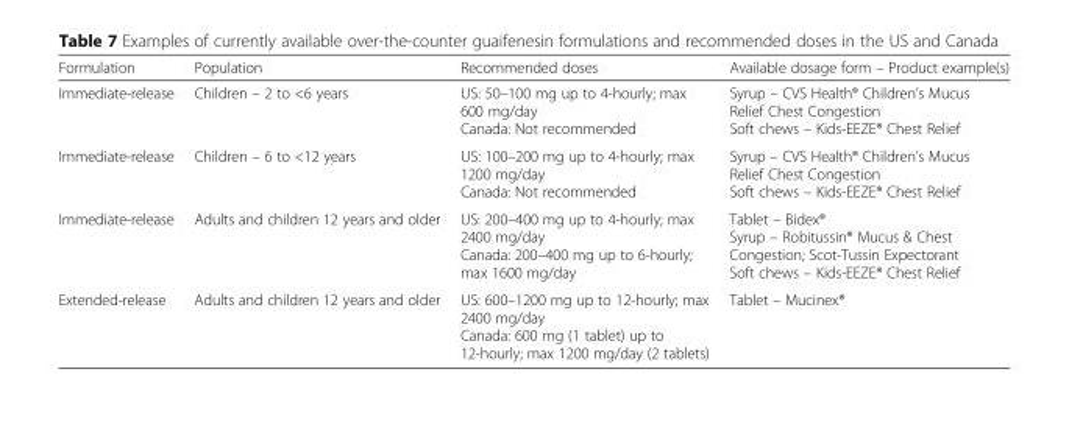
<table><thead><tr><td>Formulation</td><td>Population</td><td>Recommended doses</td><td>Available dosage form – Product example(s)</td></tr></thead><tbody><tr><td>Immediate-release</td><td>Children – 2 to &lt;6 years</td><td>US: 50–100 mg up to 4-hourly; max 600 mg/day Canada: Not recommended</td><td>Syrup – CVS Health® Children’s Mucus Relief Chest Congestion Soft chews – Kids-EEZE® Chest Relief</td></tr><tr><td>Immediate-release</td><td>Children – 6 to &lt;12 years</td><td>US: 100–200 mg up to 4-hourly; max 1200 mg/day Canada: Not recommended</td><td>Syrup – CVS Health® Children’s Mucus Relief Chest Congestion Soft chews – Kids-EEZE® Chest Relief</td></tr><tr><td>Immediate-release</td><td>Adults and children 12 years and older</td><td>US: 200–400 mg up to 4-hourly; max 2400 mg/day Canada: 200–400 mg up to 6-hourly; max 1600 mg/day</td><td>Tablet – Bidex® Syrup – Robitussin® Mucus &amp; Chest Congestion; Scot-Tussin Expectorant Soft chews – Kids-EEZE® Chest Relief</td></tr><tr><td>Extended-release</td><td>Adults and children 12 years and older</td><td>US: 600–1200 mg up to 12-hourly; max 2400 mg/day Canada: 600 mg (1 tablet) up to 12-hourly; max 1200 mg/day (2 tablets)</td><td>Tablet – Mucinex®</td></tr></tbody></table>